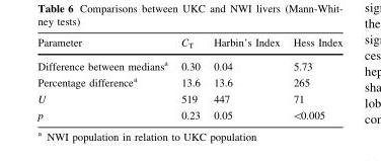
<table><thead><tr><td>Parameter</td><td>C<sub>T</sub></td><td>Harbin’s Index</td><td>Hess Index</td></tr></thead><tbody><tr><td>Difference between medians<sup>a</sup></td><td>0.30</td><td>0.04</td><td>5.73</td></tr><tr><td>Percentage difference<sup>a</sup></td><td>13.6</td><td>13.6</td><td>265</td></tr><tr><td>U</td><td>519</td><td>447</td><td>71</td></tr><tr><td>p</td><td>0.23</td><td>0.05</td><td>&lt;0.005</td></tr></tbody></table>